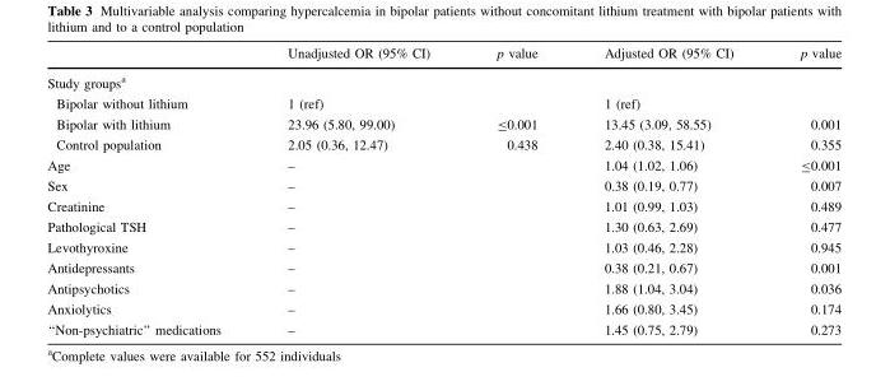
<table><thead><tr><td></td><td>Unadjusted OR (95% CI)</td><td>p value</td><td>Adjusted OR (95% CI)</td><td>p value</td></tr></thead><tbody><tr><td colspan="5">Study groups<sup>a</sup></td></tr><tr><td>Bipolar without lithium</td><td>1 (ref)</td><td></td><td>1 (ref)</td><td></td></tr><tr><td>Bipolar with lithium</td><td>23.96 (5.80, 99.00)</td><td>≤0.001</td><td>13.45 (3.09, 58.55)</td><td>0.001</td></tr><tr><td>Control population</td><td>2.05 (0.36, 12.47)</td><td>0.438</td><td>2.40 (0.38, 15.41)</td><td>0.355</td></tr><tr><td>Age</td><td>–</td><td></td><td>1.04 (1.02, 1.06)</td><td>≤0.001</td></tr><tr><td>Sex</td><td>–</td><td></td><td>0.38 (0.19, 0.77)</td><td>0.007</td></tr><tr><td>Creatinine</td><td>–</td><td></td><td>1.01 (0.99, 1.03)</td><td>0.489</td></tr><tr><td>Pathological TSH</td><td>–</td><td></td><td>1.30 (0.63, 2.69)</td><td>0.477</td></tr><tr><td>Levothyroxine</td><td>–</td><td></td><td>1.03 (0.46, 2.28)</td><td>0.945</td></tr><tr><td>Antidepressants</td><td>–</td><td></td><td>0.38 (0.21, 0.67)</td><td>0.001</td></tr><tr><td>Antipsychotics</td><td>–</td><td></td><td>1.88 (1.04, 3.04)</td><td>0.036</td></tr><tr><td>Anxiolytics</td><td>–</td><td></td><td>1.66 (0.80, 3.45)</td><td>0.174</td></tr><tr><td>‘‘Non-psychiatric’’ medications</td><td>–</td><td></td><td>1.45 (0.75, 2.79)</td><td>0.273</td></tr></tbody></table>